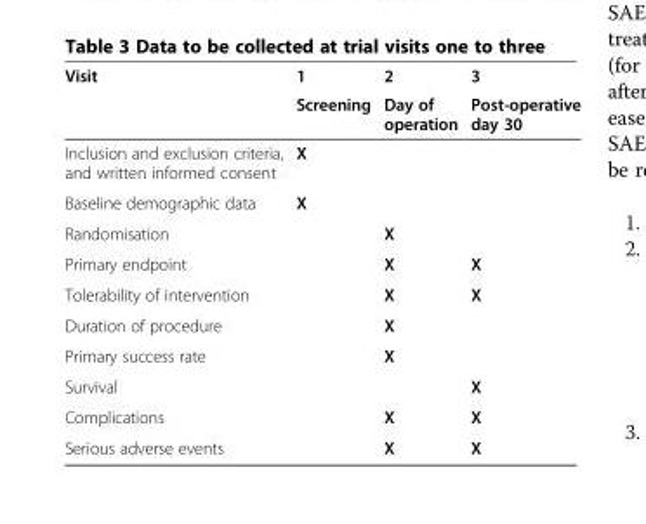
<table><thead><tr><td rowspan="2">Visit</td><td rowspan="2">1 Screening</td><td rowspan="2">2 Day of operation</td><td rowspan="2">3 Post-operative day 30</td></tr><tr></tr></thead><tbody><tr><td>Inclusion and exclusion criteria, and written informed consent</td><td>X</td><td></td><td></td></tr><tr><td>Baseline demographic data</td><td>X</td><td></td><td></td></tr><tr><td>Randomisation</td><td></td><td>X</td><td></td></tr><tr><td>Primary endpoint</td><td></td><td>X</td><td>X</td></tr><tr><td>Tolerability of intervention</td><td></td><td>X</td><td>X</td></tr><tr><td>Duration of procedure</td><td></td><td>X</td><td></td></tr><tr><td>Primary success rate</td><td></td><td>X</td><td></td></tr><tr><td>Survival</td><td></td><td></td><td>X</td></tr><tr><td>Complications</td><td></td><td>X</td><td>X</td></tr><tr><td>Serious adverse events</td><td></td><td>X</td><td>X</td></tr></tbody></table>